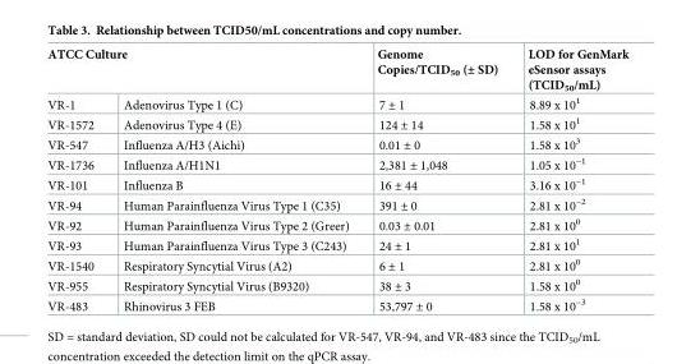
<table><thead><tr><td colspan="2">ATCC Culture</td><td rowspan="2">Genome Copies/TCID<sub>50</sub> (± SD) 7 ± 1</td><td rowspan="2">LOD for GenMark eSensor assays (TCID<sub>50</sub>/mL) 8.89 x 10<sup>1</sup></td></tr><tr><td>VR-1</td><td>Adenovirus Type 1 (C)</td></tr></thead><tbody><tr><td>VR-1572</td><td>Adenovirus Type 4 (E)</td><td>124 ± 14</td><td>1.58 x 10<sup>1</sup></td></tr><tr><td>VR-547</td><td>Influenza A/H3 (Aichi)</td><td>0.01 ± 0</td><td>1.58 x 10<sup>3</sup></td></tr><tr><td>VR-1736</td><td>Influenza A/H1N1</td><td>2,381 ± 1,048</td><td>1.05 x 10<sup>−1</sup></td></tr><tr><td>VR-101</td><td>Influenza B</td><td>16 ± 44</td><td>3.16 x 10<sup>−1</sup></td></tr><tr><td>VR-94</td><td>Human Parainfluenza Virus Type 1 (C35)</td><td>391 ± 0</td><td>2.81 x 10<sup>−2</sup></td></tr><tr><td>VR-92</td><td>Human Parainfluenza Virus Type 2 (Greer)</td><td>0.03 ± 0.01</td><td>2.81 x 10<sup>0</sup></td></tr><tr><td>VR-93</td><td>Human Parainfluenza Virus Type 3 (C243)</td><td>24 ± 1</td><td>2.81 x 10<sup>1</sup></td></tr><tr><td>VR-1540</td><td>Respiratory Syncytial Virus (A2)</td><td>6 ± 1</td><td>2.81 x 10<sup>0</sup></td></tr><tr><td>VR-955</td><td>Respiratory Syncytial Virus (B9320)</td><td>38 ± 3</td><td>1.58 x 10<sup>0</sup></td></tr><tr><td>VR-483</td><td>Rhinovirus 3 FEB</td><td>53,797 ± 0</td><td>1.58 x 10<sup>−3</sup></td></tr></tbody></table>